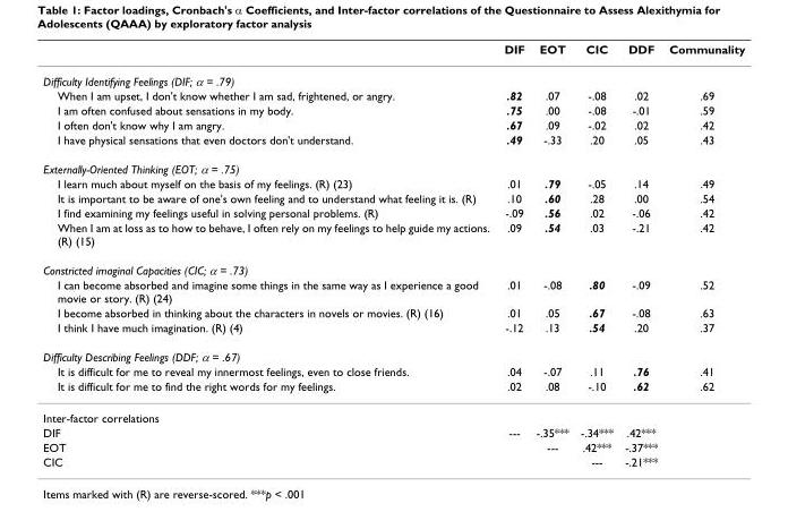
<table><thead><tr><td></td><td>DIF</td><td>EOT</td><td>CIC</td><td>DDF</td><td>Communality</td></tr></thead><tbody><tr><td colspan="6">Difficulty Identifying Feelings (DIF; α = .79)</td></tr><tr><td>When I am upset, I don&#x27;t know whether I am sad, frightened, or angry.</td><td>.82</td><td>.07</td><td>-.08</td><td>.02</td><td>.69</td></tr><tr><td>I am often confused about sensations in my body.</td><td>.75</td><td>.00</td><td>-.08</td><td>-.01</td><td>.59</td></tr><tr><td>I often don&#x27;t know why I am angry.</td><td>.67</td><td>.09</td><td>-.02</td><td>.02</td><td>.42</td></tr><tr><td>I have physical sensations that even doctors don&#x27;t understand.</td><td>.49</td><td>-.33</td><td>.20</td><td>.05</td><td>.43</td></tr><tr><td colspan="6">Externally-Oriented Thinking (EOT; α = .75)</td></tr><tr><td>I learn much about myself on the basis of my feelings. (R) (23)</td><td>.01</td><td>.79</td><td>-.05</td><td>.14</td><td>.49</td></tr><tr><td>It is important to be aware of one&#x27;s own feeling and to understand what feeling it is. (R)</td><td>.10</td><td>.60</td><td>.28</td><td>.00</td><td>.54</td></tr><tr><td>I find examining my feelings useful in solving personal problems. (R)</td><td>-.09</td><td>.56</td><td>.02</td><td>-.06</td><td>.42</td></tr><tr><td>When I am at loss as to how to behave, I often rely on my feelings to help guide my actions. (R) (15)</td><td>.09</td><td>.54</td><td>.03</td><td>-.21</td><td>.42</td></tr><tr><td colspan="6">Constricted imaginal Capacities (CIC; α = .73)</td></tr><tr><td>I can become absorbed and imagine some things in the same way as I experience a good movie or story. (R) (24)</td><td>.01</td><td>-.08</td><td>.80</td><td>-.09</td><td>.52</td></tr><tr><td>I become absorbed in thinking about the characters in novels or movies. (R) (16)</td><td>.01</td><td>.05</td><td>.67</td><td>-.08</td><td>.63</td></tr><tr><td>I think I have much imagination. (R) (4)</td><td>-.12</td><td>.13</td><td>.54</td><td>.20</td><td>.37</td></tr><tr><td colspan="6">Difficulty Describing Feelings (DDF; α = .67)</td></tr><tr><td>It is difficult for me to reveal my innermost feelings, even to close friends.</td><td>.04</td><td>-.07</td><td>.11</td><td>.76</td><td>.41</td></tr><tr><td>It is difficult for me to find the right words for my feelings.</td><td>.02</td><td>.08</td><td>-.10</td><td>.62</td><td>.62</td></tr><tr><td colspan="6">Inter-factor correlations</td></tr><tr><td>DIF</td><td>---</td><td>-.35***</td><td>-.34***</td><td>.42***</td><td></td></tr><tr><td>EOT</td><td></td><td>---</td><td>.42***</td><td>-.37***</td><td></td></tr><tr><td>CIC</td><td></td><td></td><td>---</td><td>-.21***</td><td></td></tr></tbody></table>